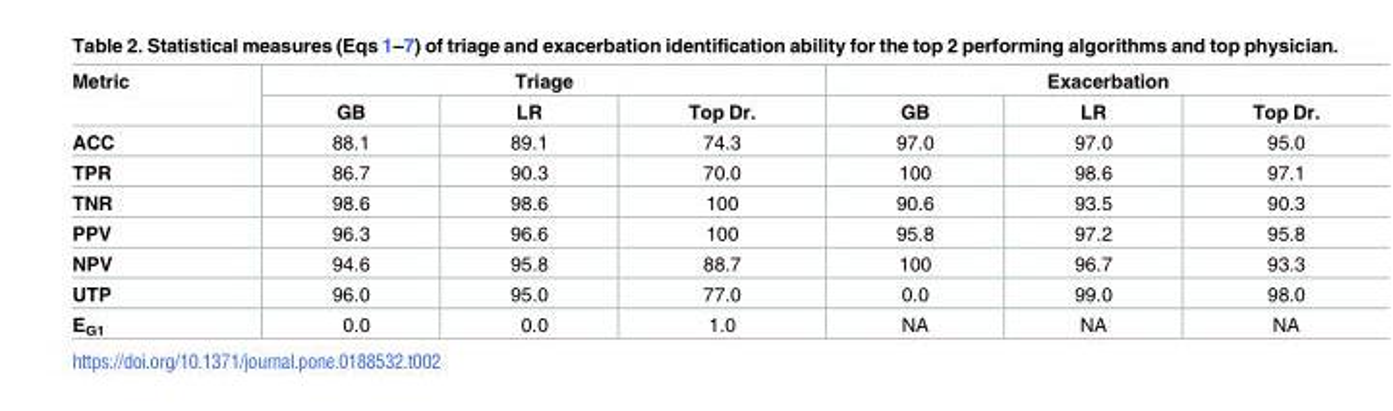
<table><thead><tr><td rowspan="2">Metric</td><td colspan="3">Triage</td><td colspan="3">Exacerbation</td></tr><tr><td>GB</td><td>LR</td><td>Top Dr.</td><td>GB</td><td>LR</td><td>Top Dr.</td></tr></thead><tbody><tr><td>ACC</td><td>88.1</td><td>89.1</td><td>74.3</td><td>97.0</td><td>97.0</td><td>95.0</td></tr><tr><td>TPR</td><td>86.7</td><td>90.3</td><td>70.0</td><td>100</td><td>98.6</td><td>97.1</td></tr><tr><td>TNR</td><td>98.6</td><td>98.6</td><td>100</td><td>90.6</td><td>93.5</td><td>90.3</td></tr><tr><td>PPV</td><td>96.3</td><td>96.6</td><td>100</td><td>95.8</td><td>97.2</td><td>95.8</td></tr><tr><td>NPV</td><td>94.6</td><td>95.8</td><td>88.7</td><td>100</td><td>96.7</td><td>93.3</td></tr><tr><td>UTP</td><td>96.0</td><td>95.0</td><td>77.0</td><td>0.0</td><td>99.0</td><td>98.0</td></tr><tr><td>E<sub>G1</sub></td><td>0.0</td><td>0.0</td><td>1.0</td><td>NA</td><td>NA</td><td>NA</td></tr></tbody></table>